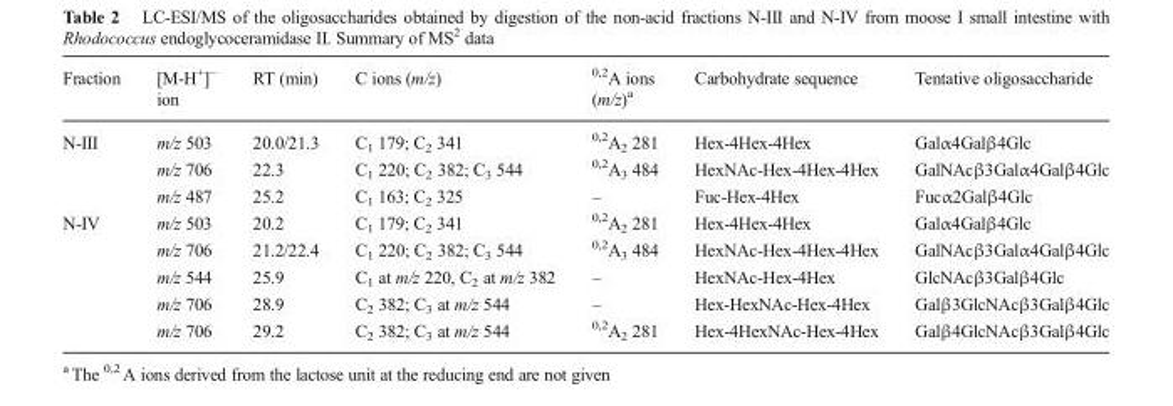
<table><thead><tr><td>Fraction</td><td>[M-H<sup>+</sup>]<sup>−</sup> ion</td><td>RT (min)</td><td>C ions (m/z)</td><td><sup>0,2</sup>A ions (m/z)<sup>a</sup></td><td>Carbohydrate sequence</td><td>Tentative oligosaccharide</td></tr></thead><tbody><tr><td rowspan="3">N-III</td><td>m/z 503</td><td>20.0/21.3</td><td>C<sub>1</sub> 179; C<sub>2</sub> 341</td><td><sup>0,2</sup>A<sub>2</sub> 281</td><td>Hex-4Hex-4Hex</td><td>Galα4Galβ4Glc</td></tr><tr><td>m/z 706</td><td>22.3</td><td>C<sub>1</sub> 220; C<sub>2</sub> 382; C<sub>3</sub> 544</td><td><sup>0,2</sup>A<sub>3</sub> 484</td><td>HexNAc-Hex-4Hex-4Hex</td><td>GalNAcβ3Galα4Galβ4Glc</td></tr><tr><td>m/z 487</td><td>25.2</td><td>C<sub>1</sub> 163; C<sub>2</sub> 325</td><td>–</td><td>Fuc-Hex-4Hex</td><td>Fucα2Galβ4Glc</td></tr><tr><td rowspan="5">N-IV</td><td>m/z 503</td><td>20.2</td><td>C<sub>1</sub> 179; C<sub>2</sub> 341</td><td><sup>0,2</sup>A<sub>2</sub> 281</td><td>Hex-4Hex-4Hex</td><td>Galα4Galβ4Glc</td></tr><tr><td>m/z 706</td><td>21.2/22.4</td><td>C<sub>1</sub> 220; C<sub>2</sub> 382; C<sub>3</sub> 544</td><td><sup>0,2</sup>A<sub>3</sub> 484</td><td>HexNAc-Hex-4Hex-4Hex</td><td>GalNAcβ3Galα4Galβ4Glc</td></tr><tr><td>m/z 544</td><td>25.9</td><td>C<sub>1</sub> at m/z 220, C<sub>2</sub> at m/z 382</td><td>–</td><td>HexNAc-Hex-4Hex</td><td>GlcNAcβ3Galβ4Glc</td></tr><tr><td>m/z 706</td><td>28.9</td><td>C<sub>2</sub> 382; C<sub>3</sub> at m/z 544</td><td>–</td><td>Hex-HexNAc-Hex-4Hex</td><td>Galβ3GlcNAcβ3Galβ4Glc</td></tr><tr><td>m/z 706</td><td>29.2</td><td>C<sub>2</sub> 382; C<sub>3</sub> at m/z 544</td><td><sup>0,2</sup>A<sub>2</sub> 281</td><td>Hex-4HexNAc-Hex-4Hex</td><td>Galβ4GlcNAcβ3Galβ4Glc</td></tr></tbody></table>